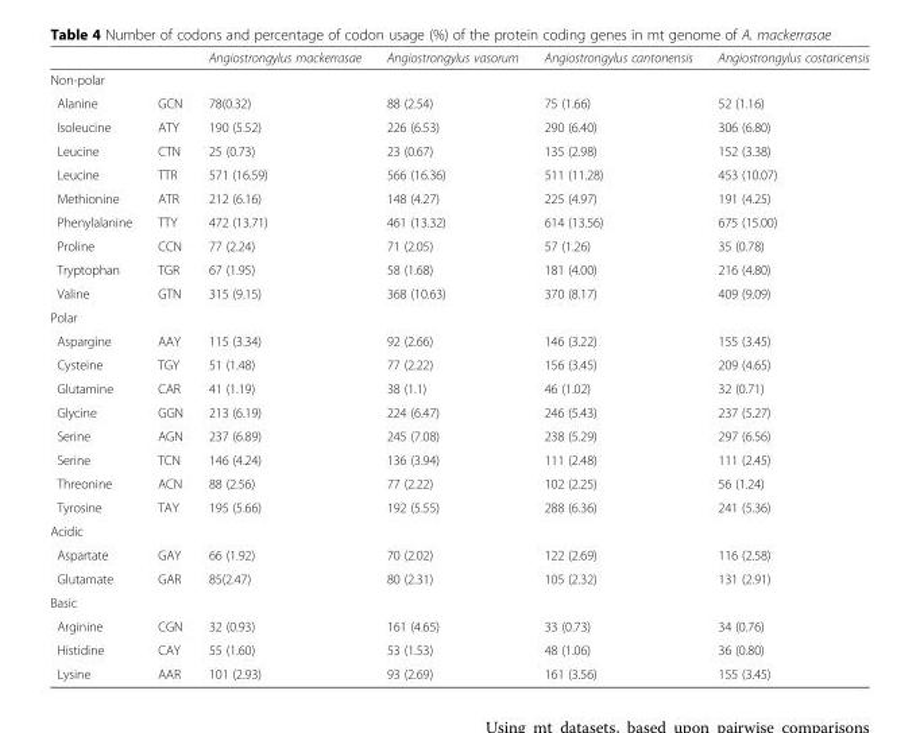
<table><thead><tr><td></td><td></td><td>Angiostrongylus mackerrasae</td><td>Angiostrongylus vasorum</td><td>Angiostrongylus cantonensis</td><td>Angiostrongylus costaricensis</td></tr></thead><tbody><tr><td colspan="6">Non-polar</td></tr><tr><td>Alanine</td><td>GCN</td><td>78(0.32)</td><td>88 (2.54)</td><td>75 (1.66)</td><td>52 (1.16)</td></tr><tr><td>Isoleucine</td><td>ATY</td><td>190 (5.52)</td><td>226 (6.53)</td><td>290 (6.40)</td><td>306 (6.80)</td></tr><tr><td>Leucine</td><td>CTN</td><td>25 (0.73)</td><td>23 (0.67)</td><td>135 (2.98)</td><td>152 (3.38)</td></tr><tr><td>Leucine</td><td>TTR</td><td>571 (16.59)</td><td>566 (16.36)</td><td>511 (11.28)</td><td>453 (10.07)</td></tr><tr><td>Methionine</td><td>ATR</td><td>212 (6.16)</td><td>148 (4.27)</td><td>225 (4.97)</td><td>191 (4.25)</td></tr><tr><td>Phenylalanine</td><td>TTY</td><td>472 (13.71)</td><td>461 (13.32)</td><td>614 (13.56)</td><td>675 (15.00)</td></tr><tr><td>Proline</td><td>CCN</td><td>77 (2.24)</td><td>71 (2.05)</td><td>57 (1.26)</td><td>35 (0.78)</td></tr><tr><td>Tryptophan</td><td>TGR</td><td>67 (1.95)</td><td>58 (1.68)</td><td>181 (4.00)</td><td>216 (4.80)</td></tr><tr><td>Valine</td><td>GTN</td><td>315 (9.15)</td><td>368 (10.63)</td><td>370 (8.17)</td><td>409 (9.09)</td></tr><tr><td colspan="6">Polar</td></tr><tr><td>Aspargine</td><td>AAY</td><td>115 (3.34)</td><td>92 (2.66)</td><td>146 (3.22)</td><td>155 (3.45)</td></tr><tr><td>Cysteine</td><td>TGY</td><td>51 (1.48)</td><td>77 (2.22)</td><td>156 (3.45)</td><td>209 (4.65)</td></tr><tr><td>Glutamine</td><td>CAR</td><td>41 (1.19)</td><td>38 (1.1)</td><td>46 (1.02)</td><td>32 (0.71)</td></tr><tr><td>Glycine</td><td>GGN</td><td>213 (6.19)</td><td>224 (6.47)</td><td>246 (5.43)</td><td>237 (5.27)</td></tr><tr><td>Serine</td><td>AGN</td><td>237 (6.89)</td><td>245 (7.08)</td><td>238 (5.29)</td><td>297 (6.56)</td></tr><tr><td>Serine</td><td>TCN</td><td>146 (4.24)</td><td>136 (3.94)</td><td>111 (2.48)</td><td>111 (2.45)</td></tr><tr><td>Threonine</td><td>ACN</td><td>88 (2.56)</td><td>77 (2.22)</td><td>102 (2.25)</td><td>56 (1.24)</td></tr><tr><td>Tyrosine</td><td>TAY</td><td>195 (5.66)</td><td>192 (5.55)</td><td>288 (6.36)</td><td>241 (5.36)</td></tr><tr><td colspan="6">Acidic</td></tr><tr><td>Aspartate</td><td>GAY</td><td>66 (1.92)</td><td>70 (2.02)</td><td>122 (2.69)</td><td>116 (2.58)</td></tr><tr><td>Glutamate</td><td>GAR</td><td>85(2.47)</td><td>80 (2.31)</td><td>105 (2.32)</td><td>131 (2.91)</td></tr><tr><td colspan="6">Basic</td></tr><tr><td>Arginine</td><td>CGN</td><td>32 (0.93)</td><td>161 (4.65)</td><td>33 (0.73)</td><td>34 (0.76)</td></tr><tr><td>Histidine</td><td>CAY</td><td>55 (1.60)</td><td>53 (1.53)</td><td>48 (1.06)</td><td>36 (0.80)</td></tr><tr><td>Lysine</td><td>AAR</td><td>101 (2.93)</td><td>93 (2.69)</td><td>161 (3.56)</td><td>155 (3.45)</td></tr></tbody></table>